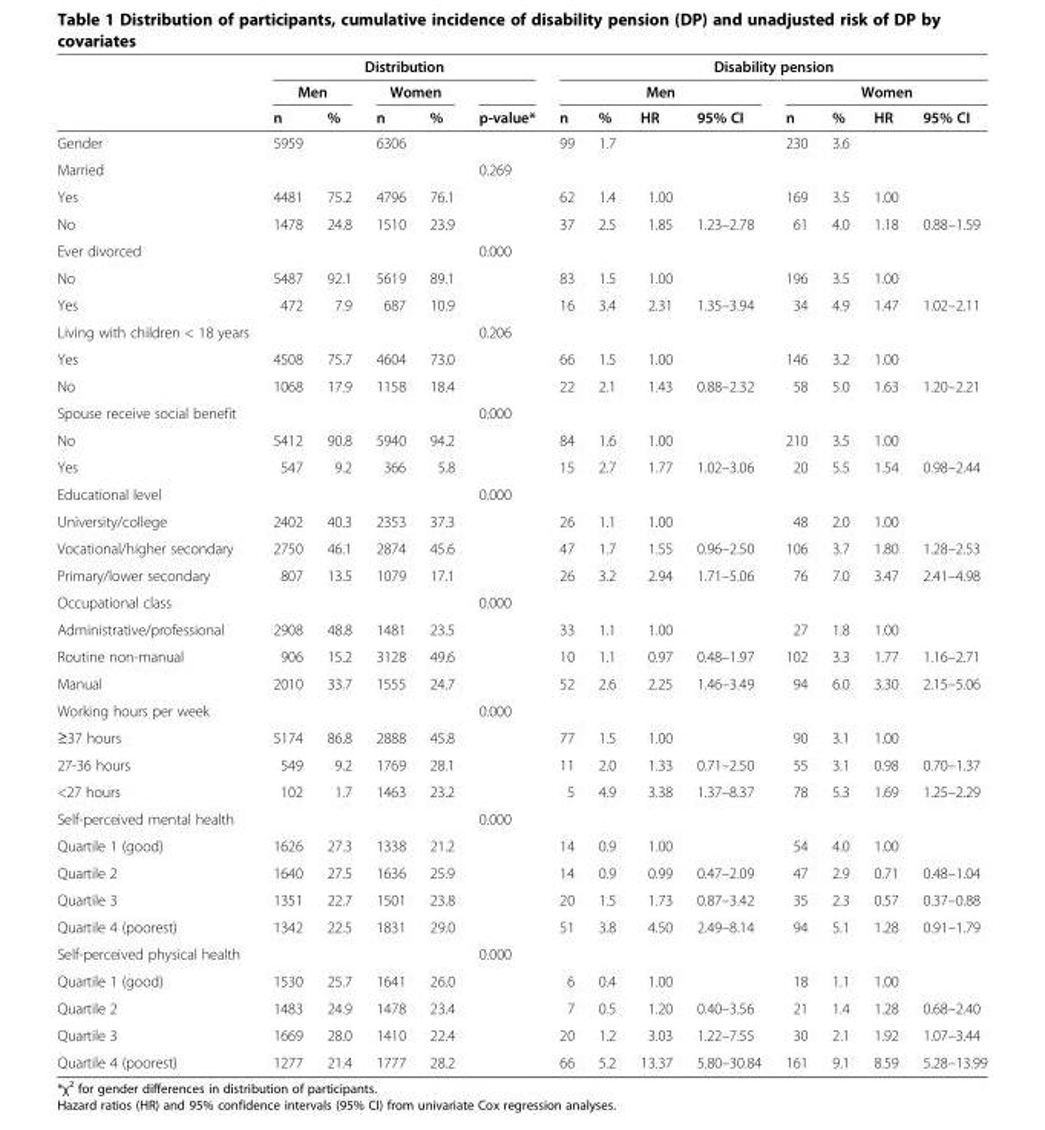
<table><thead><tr><td rowspan="3"></td><td colspan="5">Distribution</td><td colspan="8">Disability pension</td></tr><tr><td colspan="2">Men</td><td colspan="2">Women</td><td rowspan="2">p-value*</td><td colspan="4">Men</td><td colspan="4">Women</td></tr><tr><td>n</td><td>%</td><td>n</td><td>%</td><td>n</td><td>%</td><td>HR</td><td>95% CI</td><td>n</td><td>%</td><td>HR</td><td>95% CI</td></tr></thead><tbody><tr><td>Gender</td><td>5959</td><td></td><td>6306</td><td></td><td></td><td>99</td><td>1.7</td><td></td><td></td><td>230</td><td>3.6</td><td></td><td></td></tr><tr><td>Married</td><td></td><td></td><td></td><td></td><td>0.269</td><td></td><td></td><td></td><td></td><td></td><td></td><td></td><td></td></tr><tr><td>Yes</td><td>4481</td><td>75.2</td><td>4796</td><td>76.1</td><td></td><td>62</td><td>1.4</td><td>1.00</td><td></td><td>169</td><td>3.5</td><td>1.00</td><td></td></tr><tr><td>No</td><td>1478</td><td>24.8</td><td>1510</td><td>23.9</td><td></td><td>37</td><td>2.5</td><td>1.85</td><td>1.23–2.78</td><td>61</td><td>4.0</td><td>1.18</td><td>0.88–1.59</td></tr><tr><td>Ever divorced</td><td></td><td></td><td></td><td></td><td>0.000</td><td></td><td></td><td></td><td></td><td></td><td></td><td></td><td></td></tr><tr><td>No</td><td>5487</td><td>92.1</td><td>5619</td><td>89.1</td><td></td><td>83</td><td>1.5</td><td>1.00</td><td></td><td>196</td><td>3.5</td><td>1.00</td><td></td></tr><tr><td>Yes</td><td>472</td><td>7.9</td><td>687</td><td>10.9</td><td></td><td>16</td><td>3.4</td><td>2.31</td><td>1.35–3.94</td><td>34</td><td>4.9</td><td>1.47</td><td>1.02–2.11</td></tr><tr><td>Living with children &lt; 18 years</td><td></td><td></td><td></td><td></td><td>0.206</td><td></td><td></td><td></td><td></td><td></td><td></td><td></td><td></td></tr><tr><td>Yes</td><td>4508</td><td>75.7</td><td>4604</td><td>73.0</td><td></td><td>66</td><td>1.5</td><td>1.00</td><td></td><td>146</td><td>3.2</td><td>1.00</td><td></td></tr><tr><td>No</td><td>1068</td><td>17.9</td><td>1158</td><td>18.4</td><td></td><td>22</td><td>2.1</td><td>1.43</td><td>0.88–2.32</td><td>58</td><td>5.0</td><td>1.63</td><td>1.20–2.21</td></tr><tr><td>Spouse receive social benefit</td><td></td><td></td><td></td><td></td><td>0.000</td><td></td><td></td><td></td><td></td><td></td><td></td><td></td><td></td></tr><tr><td>No</td><td>5412</td><td>90.8</td><td>5940</td><td>94.2</td><td></td><td>84</td><td>1.6</td><td>1.00</td><td></td><td>210</td><td>3.5</td><td>1.00</td><td></td></tr><tr><td>Yes</td><td>547</td><td>9.2</td><td>366</td><td>5.8</td><td></td><td>15</td><td>2.7</td><td>1.77</td><td>1.02–3.06</td><td>20</td><td>5.5</td><td>1.54</td><td>0.98–2.44</td></tr><tr><td>Educational level</td><td></td><td></td><td></td><td></td><td>0.000</td><td></td><td></td><td></td><td></td><td></td><td></td><td></td><td></td></tr><tr><td>University/college</td><td>2402</td><td>40.3</td><td>2353</td><td>37.3</td><td></td><td>26</td><td>1.1</td><td>1.00</td><td></td><td>48</td><td>2.0</td><td>1.00</td><td></td></tr><tr><td>Vocational/higher secondary</td><td>2750</td><td>46.1</td><td>2874</td><td>45.6</td><td></td><td>47</td><td>1.7</td><td>1.55</td><td>0.96–2.50</td><td>106</td><td>3.7</td><td>1.80</td><td>1.28–2.53</td></tr><tr><td>Primary/lower secondary</td><td>807</td><td>13.5</td><td>1079</td><td>17.1</td><td></td><td>26</td><td>3.2</td><td>2.94</td><td>1.71–5.06</td><td>76</td><td>7.0</td><td>3.47</td><td>2.41–4.98</td></tr><tr><td>Occupational class</td><td></td><td></td><td></td><td></td><td>0.000</td><td></td><td></td><td></td><td></td><td></td><td></td><td></td><td></td></tr><tr><td>Administrative/professional</td><td>2908</td><td>48.8</td><td>1481</td><td>23.5</td><td></td><td>33</td><td>1.1</td><td>1.00</td><td></td><td>27</td><td>1.8</td><td>1.00</td><td></td></tr><tr><td>Routine non-manual</td><td>906</td><td>15.2</td><td>3128</td><td>49.6</td><td></td><td>10</td><td>1.1</td><td>0.97</td><td>0.48–1.97</td><td>102</td><td>3.3</td><td>1.77</td><td>1.16–2.71</td></tr><tr><td>Manual</td><td>2010</td><td>33.7</td><td>1555</td><td>24.7</td><td></td><td>52</td><td>2.6</td><td>2.25</td><td>1.46–3.49</td><td>94</td><td>6.0</td><td>3.30</td><td>2.15–5.06</td></tr><tr><td>Working hours per week</td><td></td><td></td><td></td><td></td><td>0.000</td><td></td><td></td><td></td><td></td><td></td><td></td><td></td><td></td></tr><tr><td>≥37 hours</td><td>5174</td><td>86.8</td><td>2888</td><td>45.8</td><td></td><td>77</td><td>1.5</td><td>1.00</td><td></td><td>90</td><td>3.1</td><td>1.00</td><td></td></tr><tr><td>27-36 hours</td><td>549</td><td>9.2</td><td>1769</td><td>28.1</td><td></td><td>11</td><td>2.0</td><td>1.33</td><td>0.71–2.50</td><td>55</td><td>3.1</td><td>0.98</td><td>0.70–1.37</td></tr><tr><td>&lt;27 hours</td><td>102</td><td>1.7</td><td>1463</td><td>23.2</td><td></td><td>5</td><td>4.9</td><td>3.38</td><td>1.37–8.37</td><td>78</td><td>5.3</td><td>1.69</td><td>1.25–2.29</td></tr><tr><td>Self-perceived mental health</td><td></td><td></td><td></td><td></td><td>0.000</td><td></td><td></td><td></td><td></td><td></td><td></td><td></td><td></td></tr><tr><td>Quartile 1 (good)</td><td>1626</td><td>27.3</td><td>1338</td><td>21.2</td><td></td><td>14</td><td>0.9</td><td>1.00</td><td></td><td>54</td><td>4.0</td><td>1.00</td><td></td></tr><tr><td>Quartile 2</td><td>1640</td><td>27.5</td><td>1636</td><td>25.9</td><td></td><td>14</td><td>0.9</td><td>0.99</td><td>0.47–2.09</td><td>47</td><td>2.9</td><td>0.71</td><td>0.48–1.04</td></tr><tr><td>Quartile 3</td><td>1351</td><td>22.7</td><td>1501</td><td>23.8</td><td></td><td>20</td><td>1.5</td><td>1.73</td><td>0.87–3.42</td><td>35</td><td>2.3</td><td>0.57</td><td>0.37–0.88</td></tr><tr><td>Quartile 4 (poorest)</td><td>1342</td><td>22.5</td><td>1831</td><td>29.0</td><td></td><td>51</td><td>3.8</td><td>4.50</td><td>2.49–8.14</td><td>94</td><td>5.1</td><td>1.28</td><td>0.91–1.79</td></tr><tr><td>Self-perceived physical health</td><td></td><td></td><td></td><td></td><td>0.000</td><td></td><td></td><td></td><td></td><td></td><td></td><td></td><td></td></tr><tr><td>Quartile 1 (good)</td><td>1530</td><td>25.7</td><td>1641</td><td>26.0</td><td></td><td>6</td><td>0.4</td><td>1.00</td><td></td><td>18</td><td>1.1</td><td>1.00</td><td></td></tr><tr><td>Quartile 2</td><td>1483</td><td>24.9</td><td>1478</td><td>23.4</td><td></td><td>7</td><td>0.5</td><td>1.20</td><td>0.40–3.56</td><td>21</td><td>1.4</td><td>1.28</td><td>0.68–2.40</td></tr><tr><td>Quartile 3</td><td>1669</td><td>28.0</td><td>1410</td><td>22.4</td><td></td><td>20</td><td>1.2</td><td>3.03</td><td>1.22–7.55</td><td>30</td><td>2.1</td><td>1.92</td><td>1.07–3.44</td></tr><tr><td>Quartile 4 (poorest)</td><td>1277</td><td>21.4</td><td>1777</td><td>28.2</td><td></td><td>66</td><td>5.2</td><td>13.37</td><td>5.80–30.84</td><td>161</td><td>9.1</td><td>8.59</td><td>5.28–13.99</td></tr></tbody></table>